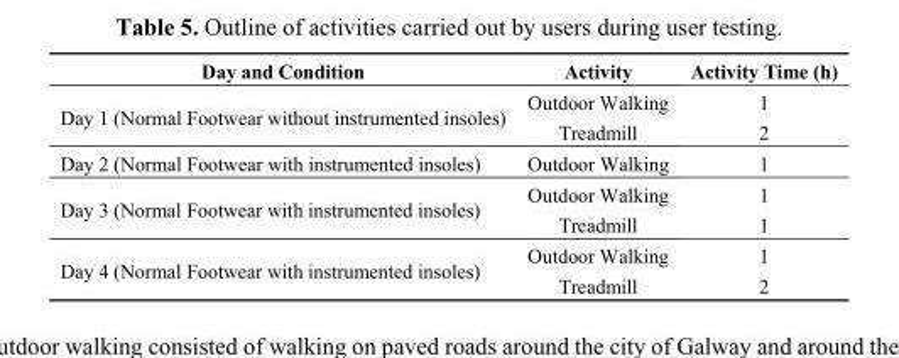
<table><thead><tr><td>Day and Condition</td><td>Activity</td><td>Activity Time (h)</td></tr></thead><tbody><tr><td rowspan="2">Day 1 (Normal Footwear without instrumented insoles)</td><td>Outdoor Walking</td><td>1</td></tr><tr><td>Treadmill</td><td>2</td></tr><tr><td>Day 2 (Normal Footwear with instrumented insoles)</td><td>Outdoor Walking</td><td>1</td></tr><tr><td rowspan="2">Day 3 (Normal Footwear with instrumented insoles)</td><td>Outdoor Walking</td><td>1</td></tr><tr><td>Treadmill</td><td>1</td></tr><tr><td rowspan="2">Day 4 (Normal Footwear with instrumented insoles)</td><td>Outdoor Walking</td><td>1</td></tr><tr><td>Treadmill</td><td>2</td></tr></tbody></table>